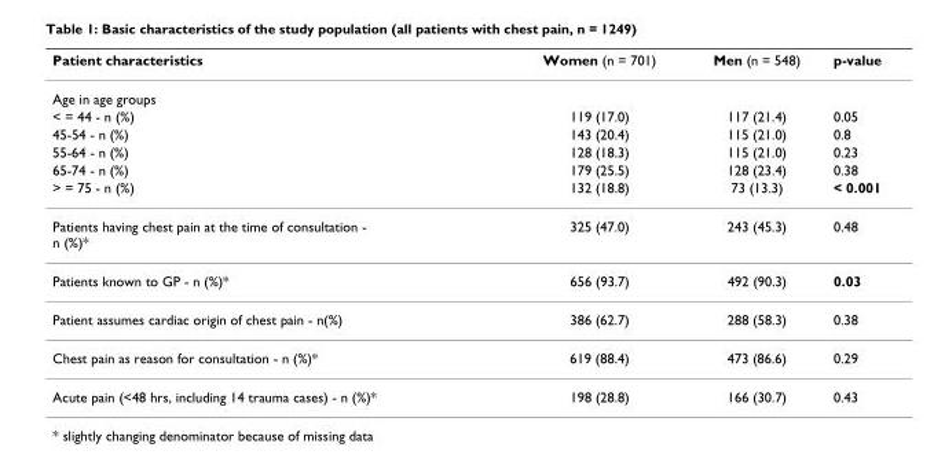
<table><thead><tr><td>Patient characteristics</td><td>Women (n = 701)</td><td>Men (n = 548)</td><td>p-value</td></tr></thead><tbody><tr><td colspan="4">Age in age groups</td></tr><tr><td>&lt; = 44 - n (%)</td><td>119 (17.0)</td><td>117 (21.4)</td><td>0.05</td></tr><tr><td>45-54 - n (%)</td><td>143 (20.4)</td><td>115 (21.0)</td><td>0.8</td></tr><tr><td>55-64 - n (%)</td><td>128 (18.3)</td><td>115 (21.0)</td><td>0.23</td></tr><tr><td>65-74 - n (%)</td><td>179 (25.5)</td><td>128 (23.4)</td><td>0.38</td></tr><tr><td>&gt; = 75 - n (%)</td><td>132 (18.8)</td><td>73 (13.3)</td><td>&lt; 0.001</td></tr><tr><td>Patients having chest pain at the time of consultation - n (%)*</td><td>325 (47.0)</td><td>243 (45.3)</td><td>0.48</td></tr><tr><td>Patients known to GP - n (%)*</td><td>656 (93.7)</td><td>492 (90.3)</td><td>0.03</td></tr><tr><td>Patient assumes cardiac origin of chest pain - n(%)</td><td>386 (62.7)</td><td>288 (58.3)</td><td>0.38</td></tr><tr><td>Chest pain as reason for consultation - n (%)*</td><td>619 (88.4)</td><td>473 (86.6)</td><td>0.29</td></tr><tr><td>Acute pain (&lt;48 hrs, including 14 trauma cases) - n (%)*</td><td>198 (28.8)</td><td>166 (30.7)</td><td>0.43</td></tr></tbody></table>